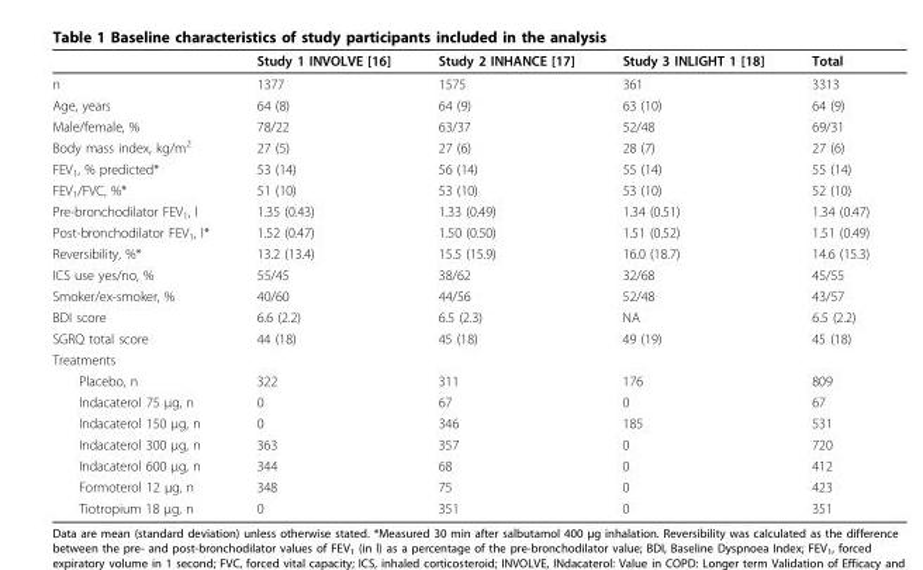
<table><thead><tr><td></td><td>Study 1 INVOLVE [16]</td><td>Study 2 INHANCE [17]</td><td>Study 3 INLIGHT 1 [18]</td><td>Total</td></tr></thead><tbody><tr><td>n</td><td>1377</td><td>1575</td><td>361</td><td>3313</td></tr><tr><td>Age, years</td><td>64 (8)</td><td>64 (9)</td><td>63 (10)</td><td>64 (9)</td></tr><tr><td>Male/female, %</td><td>78/22</td><td>63/37</td><td>52/48</td><td>69/31</td></tr><tr><td>Body mass index, kg/m<sup>2</sup></td><td>27 (5)</td><td>27 (6)</td><td>28 (7)</td><td>27 (6)</td></tr><tr><td>FEV<sub>1</sub>, % predicted*</td><td>53 (14)</td><td>56 (14)</td><td>55 (14)</td><td>55 (14)</td></tr><tr><td>FEV<sub>1</sub>/FVC, %*</td><td>51 (10)</td><td>53 (10)</td><td>53 (10)</td><td>52 (10)</td></tr><tr><td>Pre-bronchodilator FEV<sub>1</sub>, l</td><td>1.35 (0.43)</td><td>1.33 (0.49)</td><td>1.34 (0.51)</td><td>1.34 (0.47)</td></tr><tr><td>Post-bronchodilator FEV<sub>1</sub>, l*</td><td>1.52 (0.47)</td><td>1.50 (0.50)</td><td>1.51 (0.52)</td><td>1.51 (0.49)</td></tr><tr><td>Reversibility, %*</td><td>13.2 (13.4)</td><td>15.5 (15.9)</td><td>16.0 (18.7)</td><td>14.6 (15.3)</td></tr><tr><td>ICS use yes/no, %</td><td>55/45</td><td>38/62</td><td>32/68</td><td>45/55</td></tr><tr><td>Smoker/ex-smoker, %</td><td>40/60</td><td>44/56</td><td>52/48</td><td>43/57</td></tr><tr><td>BDI score</td><td>6.6 (2.2)</td><td>6.5 (2.3)</td><td>NA</td><td>6.5 (2.2)</td></tr><tr><td>SGRQ total score</td><td>44 (18)</td><td>45 (18)</td><td>49 (19)</td><td>45 (18)</td></tr><tr><td colspan="5">Treatments</td></tr><tr><td>Placebo, n</td><td>322</td><td>311</td><td>176</td><td>809</td></tr><tr><td>Indacaterol 75 μg, n</td><td>0</td><td>67</td><td>0</td><td>67</td></tr><tr><td>Indacaterol 150 μg, n</td><td>0</td><td>346</td><td>185</td><td>531</td></tr><tr><td>Indacaterol 300 μg, n</td><td>363</td><td>357</td><td>0</td><td>720</td></tr><tr><td>Indacaterol 600 μg, n</td><td>344</td><td>68</td><td>0</td><td>412</td></tr><tr><td>Formoterol 12 μg, n</td><td>348</td><td>75</td><td>0</td><td>423</td></tr><tr><td>Tiotropium 18 μg, n</td><td>0</td><td>351</td><td>0</td><td>351</td></tr></tbody></table>